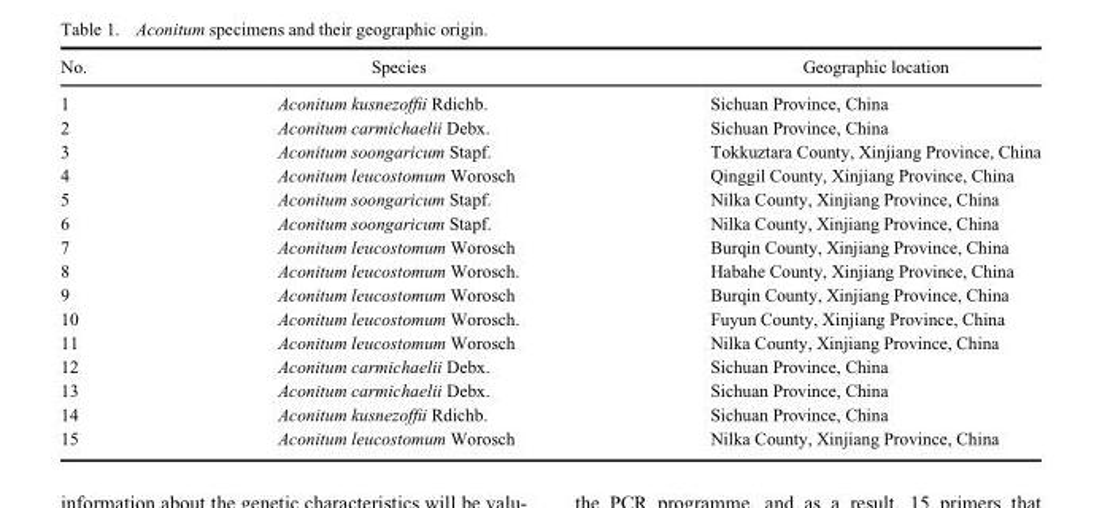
<table><thead><tr><td>No.</td><td>Species</td><td>Geographic location</td></tr></thead><tbody><tr><td>1</td><td>Aconitum kusnezoffii Rdichb.</td><td>Sichuan Province, China</td></tr><tr><td>2</td><td>Aconitum carmichaelii Debx.</td><td>Sichuan Province, China</td></tr><tr><td>3</td><td>Aconitum soongaricum Stapf.</td><td>Tokkuztara County, Xinjiang Province, China</td></tr><tr><td>4</td><td>Aconitum leucostomum Worosch</td><td>Qinggil County, Xinjiang Province, China</td></tr><tr><td>5</td><td>Aconitum soongaricum Stapf.</td><td>Nilka County, Xinjiang Province, China</td></tr><tr><td>6</td><td>Aconitum soongaricum Stapf.</td><td>Nilka County, Xinjiang Province, China</td></tr><tr><td>7</td><td>Aconitum leucostomum Worosch</td><td>Burqin County, Xinjiang Province, China</td></tr><tr><td>8</td><td>Aconitum leucostomum Worosch.</td><td>Habahe County, Xinjiang Province, China</td></tr><tr><td>9</td><td>Aconitum leucostomum Worosch</td><td>Burqin County, Xinjiang Province, China</td></tr><tr><td>10</td><td>Aconitum leucostomum Worosch.</td><td>Fuyun County, Xinjiang Province, China</td></tr><tr><td>11</td><td>Aconitum leucostomum Worosch</td><td>Nilka County, Xinjiang Province, China</td></tr><tr><td>12</td><td>Aconitum carmichaelii Debx.</td><td>Sichuan Province, China</td></tr><tr><td>13</td><td>Aconitum carmichaelii Debx.</td><td>Sichuan Province, China</td></tr><tr><td>14</td><td>Aconitum kusnezoffii Rdichb.</td><td>Sichuan Province, China</td></tr><tr><td>15</td><td>Aconitum leucostomum Worosch</td><td>Nilka County, Xinjiang Province, China</td></tr></tbody></table>